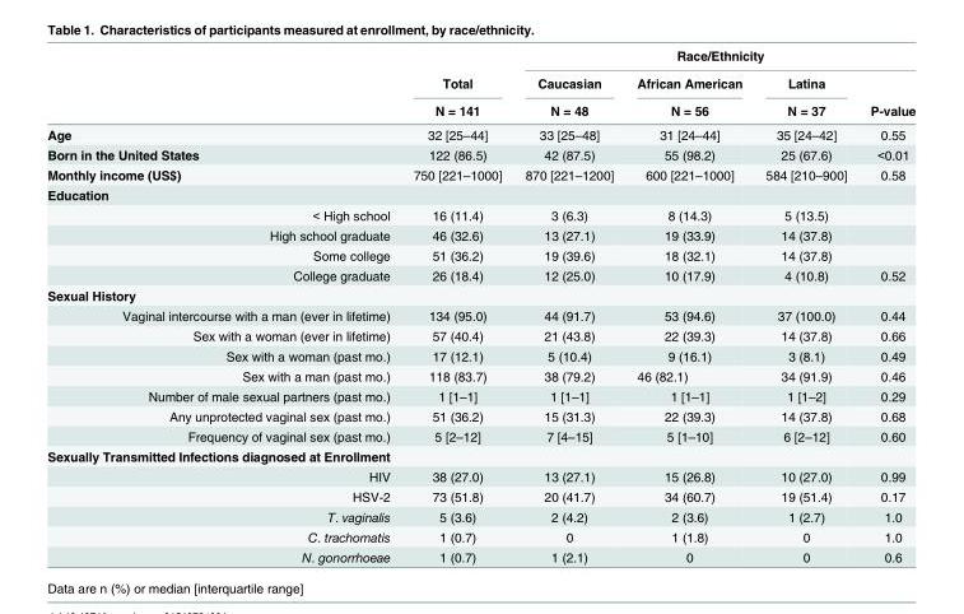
<table><thead><tr><td rowspan="3"></td><td rowspan="3">Total N = 141</td><td colspan="4">Race/Ethnicity</td></tr><tr><td rowspan="2">Caucasian N = 48</td><td rowspan="2">African American N = 56</td><td rowspan="2">Latina N = 37</td><td rowspan="2">P-value</td></tr><tr></tr></thead><tbody><tr><td>Age</td><td>32 [25–44]</td><td>33 [25–48]</td><td>31 [24–44]</td><td>35 [24–42]</td><td>0.55</td></tr><tr><td>Born in the United States</td><td>122 (86.5)</td><td>42 (87.5)</td><td>55 (98.2)</td><td>25 (67.6)</td><td>&lt;0.01</td></tr><tr><td>Monthly income (US$)</td><td>750 [221–1000]</td><td>870 [221–1200]</td><td>600 [221–1000]</td><td>584 [210–900]</td><td>0.58</td></tr><tr><td colspan="6">Education</td></tr><tr><td>&lt; High school</td><td>16 (11.4)</td><td>3 (6.3)</td><td>8 (14.3)</td><td>5 (13.5)</td><td></td></tr><tr><td>High school graduate</td><td>46 (32.6)</td><td>13 (27.1)</td><td>19 (33.9)</td><td>14 (37.8)</td><td></td></tr><tr><td>Some college</td><td>51 (36.2)</td><td>19 (39.6)</td><td>18 (32.1)</td><td>14 (37.8)</td><td></td></tr><tr><td>College graduate</td><td>26 (18.4)</td><td>12 (25.0)</td><td>10 (17.9)</td><td>4 (10.8)</td><td>0.52</td></tr><tr><td colspan="6">Sexual History</td></tr><tr><td>Vaginal intercourse with a man (ever in lifetime)</td><td>134 (95.0)</td><td>44 (91.7)</td><td>53 (94.6)</td><td>37 (100.0)</td><td>0.44</td></tr><tr><td>Sex with a woman (ever in lifetime)</td><td>57 (40.4)</td><td>21 (43.8)</td><td>22 (39.3)</td><td>14 (37.8)</td><td>0.66</td></tr><tr><td>Sex with a woman (past mo.)</td><td>17 (12.1)</td><td>5 (10.4)</td><td>9 (16.1)</td><td>3 (8.1)</td><td>0.49</td></tr><tr><td>Sex with a man (past mo.)</td><td>118 (83.7)</td><td>38 (79.2)</td><td>46 (82.1)</td><td>34 (91.9)</td><td>0.46</td></tr><tr><td>Number of male sexual partners (past mo.)</td><td>1 [1–1]</td><td>1 [1–1]</td><td>1 [1–1]</td><td>1 [1–2]</td><td>0.29</td></tr><tr><td>Any unprotected vaginal sex (past mo.)</td><td>51 (36.2)</td><td>15 (31.3)</td><td>22 (39.3)</td><td>14 (37.8)</td><td>0.68</td></tr><tr><td>Frequency of vaginal sex (past mo.)</td><td>5 [2–12]</td><td>7 [4–15]</td><td>5 [1–10]</td><td>6 [2–12]</td><td>0.60</td></tr><tr><td colspan="6">Sexually Transmitted Infections diagnosed at Enrollment</td></tr><tr><td>HIV</td><td>38 (27.0)</td><td>13 (27.1)</td><td>15 (26.8)</td><td>10 (27.0)</td><td>0.99</td></tr><tr><td>HSV-2</td><td>73 (51.8)</td><td>20 (41.7)</td><td>34 (60.7)</td><td>19 (51.4)</td><td>0.17</td></tr><tr><td>T. vaginalis</td><td>5 (3.6)</td><td>2 (4.2)</td><td>2 (3.6)</td><td>1 (2.7)</td><td>1.0</td></tr><tr><td>C. trachomatis</td><td>1 (0.7)</td><td>0</td><td>1 (1.8)</td><td>0</td><td>1.0</td></tr><tr><td>N. gonorrhoeae</td><td>1 (0.7)</td><td>1 (2.1)</td><td>0</td><td>0</td><td>0.6</td></tr></tbody></table>